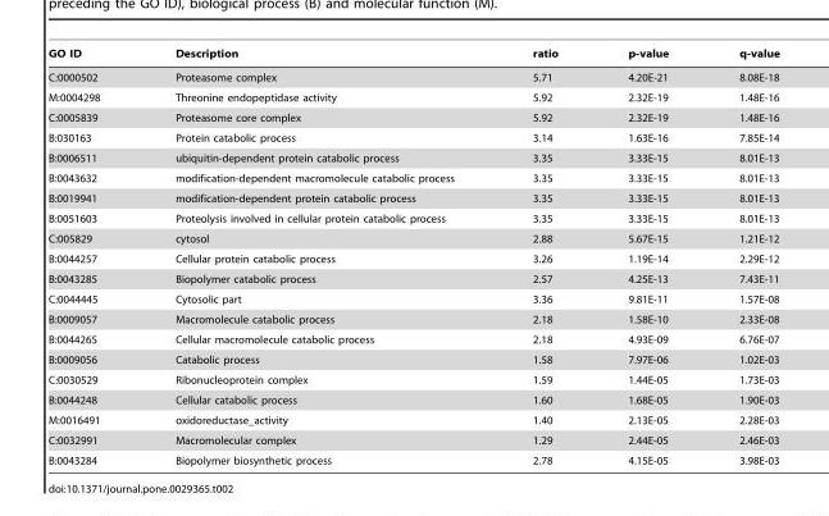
<table><thead><tr><td>GO ID</td><td>Description</td><td>ratio</td><td>p-value</td><td>q-value</td></tr></thead><tbody><tr><td>C:0000502</td><td>Proteasome complex</td><td>5.71</td><td>4.20E-21</td><td>8.08E-18</td></tr><tr><td>M:0004298</td><td>Threonine endopeptidase activity</td><td>5.92</td><td>2.32E-19</td><td>1.48E-16</td></tr><tr><td>C:0005839</td><td>Proteasome core complex</td><td>5.92</td><td>2.32E-19</td><td>1.48E-16</td></tr><tr><td>B:030163</td><td>Protein catabolic process</td><td>3.14</td><td>1.63E-16</td><td>7.85E-14</td></tr><tr><td>B:0006511</td><td>ubiquitin-dependent protein catabolic process</td><td>3.35</td><td>3.33E-15</td><td>8.01E-13</td></tr><tr><td>B:0043632</td><td>modification-dependent macromolecule catabolic process</td><td>3.35</td><td>3.33E-15</td><td>8.01E-13</td></tr><tr><td>B:0019941</td><td>modification-dependent protein catabolic process</td><td>3.35</td><td>3.33E-15</td><td>8.01E-13</td></tr><tr><td>B:0051603</td><td>Proteolysis involved in cellular protein catabolic process</td><td>3.35</td><td>3.33E-15</td><td>8.01E-13</td></tr><tr><td>C:005829</td><td>cytosol</td><td>2.88</td><td>5.67E-15</td><td>1.21E-12</td></tr><tr><td>B:0044257</td><td>Cellular protein catabolic process</td><td>3.26</td><td>1.19E-14</td><td>2.29E-12</td></tr><tr><td>B:0043285</td><td>Biopolymer catabolic process</td><td>2.57</td><td>4.25E-13</td><td>7.43E-11</td></tr><tr><td>C:0044445</td><td>Cytosolic part</td><td>3.36</td><td>9.81E-11</td><td>1.57E-08</td></tr><tr><td>B:0009057</td><td>Macromolecule catabolic process</td><td>2.18</td><td>1.58E-10</td><td>2.33E-08</td></tr><tr><td>B:0044265</td><td>Cellular macromolecule catabolic process</td><td>2.18</td><td>4.93E-09</td><td>6.76E-07</td></tr><tr><td>B:0009056</td><td>Catabolic process</td><td>1.58</td><td>7.97E-06</td><td>1.02E-03</td></tr><tr><td>C:0030529</td><td>Ribonucleoprotein complex</td><td>1.59</td><td>1.44E-05</td><td>1.73E-03</td></tr><tr><td>B:0044248</td><td>Cellular catabolic process</td><td>1.60</td><td>1.68E-05</td><td>1.90E-03</td></tr><tr><td>M:0016491</td><td>oxidoreductase_activity</td><td>1.40</td><td>2.13E-05</td><td>2.28E-03</td></tr><tr><td>C:0032991</td><td>Macromolecular complex</td><td>1.29</td><td>2.44E-05</td><td>2.46E-03</td></tr><tr><td>B:0043284</td><td>Biopolymer biosynthetic process</td><td>2.78</td><td>4.15E-05</td><td>3.98E-03</td></tr></tbody></table>